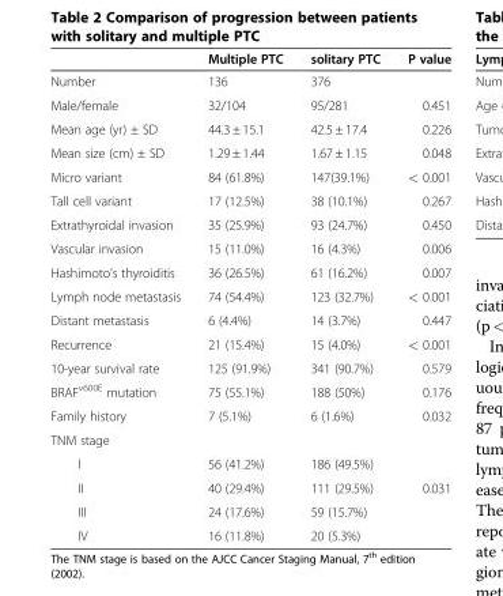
<table><thead><tr><td></td><td>Multiple PTC</td><td>solitary PTC</td><td>P value</td></tr></thead><tbody><tr><td>Number</td><td>136</td><td>376</td><td></td></tr><tr><td>Male/female</td><td>32/104</td><td>95/281</td><td>0.451</td></tr><tr><td>Mean age (yr) ± SD</td><td>44.3 ± 15.1</td><td>42.5 ± 17.4</td><td>0.226</td></tr><tr><td>Mean size (cm) ± SD</td><td>1.29 ± 1.44</td><td>1.67 ± 1.15</td><td>0.048</td></tr><tr><td>Micro variant</td><td>84 (61.8%)</td><td>147(39.1%)</td><td>&lt; 0.001</td></tr><tr><td>Tall cell variant</td><td>17 (12.5%)</td><td>38 (10.1%)</td><td>0.267</td></tr><tr><td>Extrathyroidal invasion</td><td>35 (25.9%)</td><td>93 (24.7%)</td><td>0.450</td></tr><tr><td>Vascular invasion</td><td>15 (11.0%)</td><td>16 (4.3%)</td><td>0.006</td></tr><tr><td>Hashimoto’s thyroiditis</td><td>36 (26.5%)</td><td>61 (16.2%)</td><td>0.007</td></tr><tr><td>Lymph node metastasis</td><td>74 (54.4%)</td><td>123 (32.7%)</td><td>&lt; 0.001</td></tr><tr><td>Distant metastasis</td><td>6 (4.4%)</td><td>14 (3.7%)</td><td>0.447</td></tr><tr><td>Recurrence</td><td>21 (15.4%)</td><td>15 (4.0%)</td><td>&lt; 0.001</td></tr><tr><td>10-year survival rate</td><td>125 (91.9%)</td><td>341 (90.7%)</td><td>0.579</td></tr><tr><td>BRAF<sup>v600E</sup> mutation</td><td>75 (55.1%)</td><td>188 (50%)</td><td>0.176</td></tr><tr><td>Family history</td><td>7 (5.1%)</td><td>6 (1.6%)</td><td>0.032</td></tr><tr><td colspan="4">TNM stage</td></tr><tr><td>I</td><td>56 (41.2%)</td><td>186 (49.5%)</td><td></td></tr><tr><td>II</td><td>40 (29.4%)</td><td>111 (29.5%)</td><td>0.031</td></tr><tr><td>III</td><td>24 (17.6%)</td><td>59 (15.7%)</td><td></td></tr><tr><td>IV</td><td>16 (11.8%)</td><td>20 (5.3%)</td><td></td></tr></tbody></table>